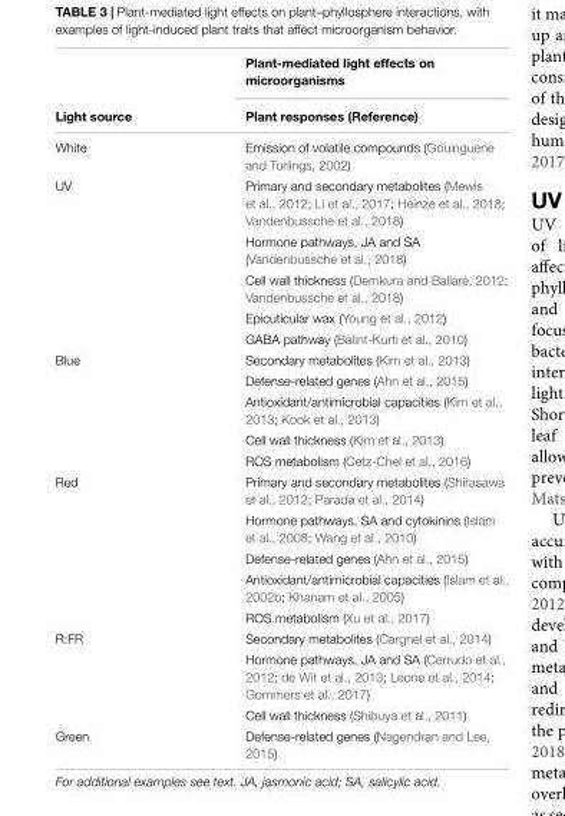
<table><thead><tr><td rowspan="2">Light source</td><td rowspan="2">Plant-mediated light effects on microorganisms Plant responses (Reference)</td></tr><tr></tr></thead><tbody><tr><td>White</td><td>Emission of volatile compounds (Gouinguene and Turlings, 2002)</td></tr><tr><td rowspan="5">UV</td><td>Primary and secondary metabolites (Mewis et al., 2012; Li et al., 2017; Heinze et al., 2018; Vandenbussche et al., 2018)</td></tr><tr><td>Hormone pathways, JA and SA (Vandenbussche et al., 2018)</td></tr><tr><td>Cell wall thickness (Demkura and Ballaré, 2012; Vandenbussche et al., 2018)</td></tr><tr><td>Epicuticular wax (Young et al., 2012)</td></tr><tr><td>GABA pathway (Balint-Kurti et al., 2010)</td></tr><tr><td rowspan="5">Blue</td><td>Secondary metabolites (Kim et al., 2013)</td></tr><tr><td>Defense-related genes (Ahn et al., 2015)</td></tr><tr><td>Antioxidant/antimicrobial capacities (Kim et al., 2013; Kook et al., 2013)</td></tr><tr><td>Cell wall thickness (Kim et al., 2013)</td></tr><tr><td>ROS metabolism (Cetz-Chel et al., 2016)</td></tr><tr><td rowspan="5">Red</td><td>Primary and secondary metabolites (Shirasawa et al., 2012; Parada et al., 2014)</td></tr><tr><td>Hormone pathways, SA and cytokinins (Islam et al., 2008; Wang et al., 2010)</td></tr><tr><td>Defense-related genes (Ahn et al., 2015)</td></tr><tr><td>Antioxidant/antimicrobial capacities (Islam et al., 2002b; Khanam et al., 2005)</td></tr><tr><td>ROS metabolism (Xu et al., 2017)</td></tr><tr><td rowspan="3">R:FR</td><td>Secondary metabolites (Cargnel et al., 2014)</td></tr><tr><td>Hormone pathways, JA and SA (Cerrudo et al., 2012; de Wit et al., 2013; Leone et al., 2014; Gommers et al., 2017)</td></tr><tr><td>Cell wall thickness (Shibuya et al., 2011)</td></tr><tr><td>Green</td><td>Defense-related genes (Nagendran and Lee, 2015)</td></tr></tbody></table>